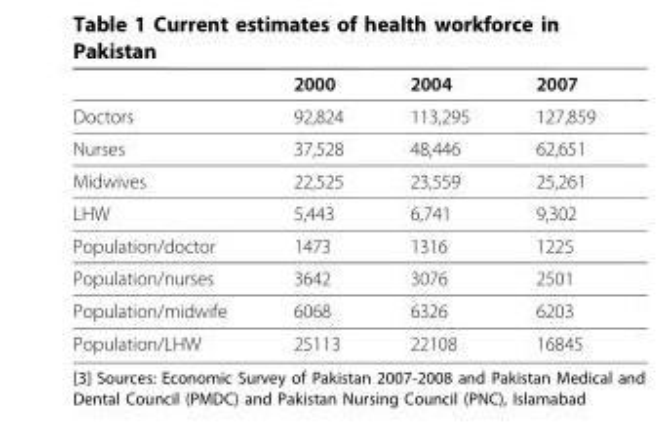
<table><thead><tr><td></td><td>2000</td><td>2004</td><td>2007</td></tr></thead><tbody><tr><td>Doctors</td><td>92,824</td><td>113,295</td><td>127,859</td></tr><tr><td>Nurses</td><td>37,528</td><td>48,446</td><td>62,651</td></tr><tr><td>Midwives</td><td>22,525</td><td>23,559</td><td>25,261</td></tr><tr><td>LHW</td><td>5,443</td><td>6,741</td><td>9,302</td></tr><tr><td>Population/doctor</td><td>1473</td><td>1316</td><td>1225</td></tr><tr><td>Population/nurses</td><td>3642</td><td>3076</td><td>2501</td></tr><tr><td>Population/midwife</td><td>6068</td><td>6326</td><td>6203</td></tr><tr><td>Population/LHW</td><td>25113</td><td>22108</td><td>16845</td></tr></tbody></table>